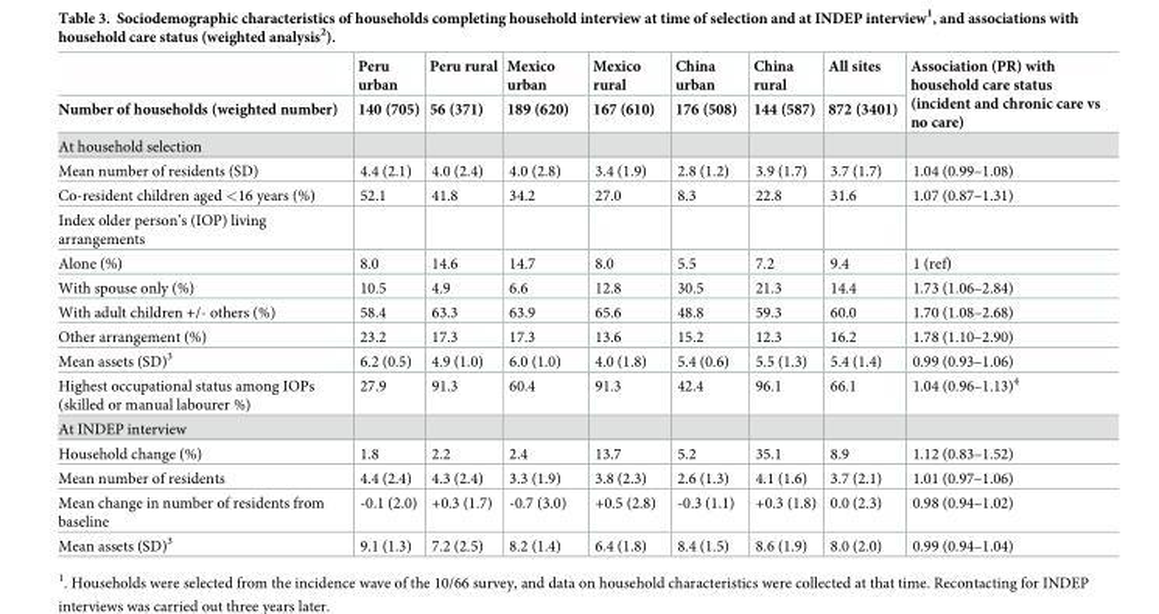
<table><thead><tr><td rowspan="2">Number of households (weighted number)</td><td rowspan="2">Peru urban 140 (705)</td><td rowspan="2">Peru rural 56 (371)</td><td rowspan="2">Mexico urban 189 (620)</td><td rowspan="2">Mexico rural 167 (610)</td><td rowspan="2">China urban 176 (508)</td><td rowspan="2">China rural 144 (587)</td><td rowspan="2">All sites 872 (3401)</td><td rowspan="2">Association (PR) with household care status (incident and chronic care vs no care)</td></tr><tr></tr></thead><tbody><tr><td colspan="9">At household selection</td></tr><tr><td>Mean number of residents (SD)</td><td>4.4 (2.1)</td><td>4.0 (2.4)</td><td>4.0 (2.8)</td><td>3.4 (1.9)</td><td>2.8 (1.2)</td><td>3.9 (1.7)</td><td>3.7 (1.7)</td><td>1.04 (0.99–1.08)</td></tr><tr><td>Co-resident children aged &lt;16 years (%)</td><td>52.1</td><td>41.8</td><td>34.2</td><td>27.0</td><td>8.3</td><td>22.8</td><td>31.6</td><td>1.07 (0.87–1.31)</td></tr><tr><td colspan="9">Index older person’s (IOP) living arrangements</td></tr><tr><td>Alone (%)</td><td>8.0</td><td>14.6</td><td>14.7</td><td>8.0</td><td>5.5</td><td>7.2</td><td>9.4</td><td>1 (ref)</td></tr><tr><td>With spouse only (%)</td><td>10.5</td><td>4.9</td><td>6.6</td><td>12.8</td><td>30.5</td><td>21.3</td><td>14.4</td><td>1.73 (1.06–2.84)</td></tr><tr><td>With adult children +/- others (%)</td><td>58.4</td><td>63.3</td><td>63.9</td><td>65.6</td><td>48.8</td><td>59.3</td><td>60.0</td><td>1.70 (1.08–2.68)</td></tr><tr><td>Other arrangement (%)</td><td>23.2</td><td>17.3</td><td>17.3</td><td>13.6</td><td>15.2</td><td>12.3</td><td>16.2</td><td>1.78 (1.10–2.90)</td></tr><tr><td>Mean assets (SD)<sup>3</sup></td><td>6.2 (0.5)</td><td>4.9 (1.0)</td><td>6.0 (1.0)</td><td>4.0 (1.8)</td><td>5.4 (0.6)</td><td>5.5 (1.3)</td><td>5.4 (1.4)</td><td>0.99 (0.93–1.06)</td></tr><tr><td>Highest occupational status among IOPs (skilled or manual labourer %)</td><td>27.9</td><td>91.3</td><td>60.4</td><td>91.3</td><td>42.4</td><td>96.1</td><td>66.1</td><td>1.04 (0.96–1.13)<sup>4</sup></td></tr><tr><td colspan="9">At INDEP interview</td></tr><tr><td>Household change (%)</td><td>1.8</td><td>2.2</td><td>2.4</td><td>13.7</td><td>5.2</td><td>35.1</td><td>8.9</td><td>1.12 (0.83–1.52)</td></tr><tr><td>Mean number of residents</td><td>4.4 (2.4)</td><td>4.3 (2.4)</td><td>3.3 (1.9)</td><td>3.8 (2.3)</td><td>2.6 (1.3)</td><td>4.1 (1.6)</td><td>3.7 (2.1)</td><td>1.01 (0.97–1.06)</td></tr><tr><td>Mean change in number of residents from baseline</td><td>-0.1 (2.0)</td><td>+0.3 (1.7)</td><td>-0.7 (3.0)</td><td>+0.5 (2.8)</td><td>-0.3 (1.1)</td><td>+0.3 (1.8)</td><td>0.0 (2.3)</td><td>0.98 (0.94–1.02)</td></tr><tr><td>Mean assets (SD)<sup>3</sup></td><td>9.1 (1.3)</td><td>7.2 (2.5)</td><td>8.2 (1.4)</td><td>6.4 (1.8)</td><td>8.4 (1.5)</td><td>8.6 (1.9)</td><td>8.0 (2.0)</td><td>0.99 (0.94–1.04)</td></tr></tbody></table>